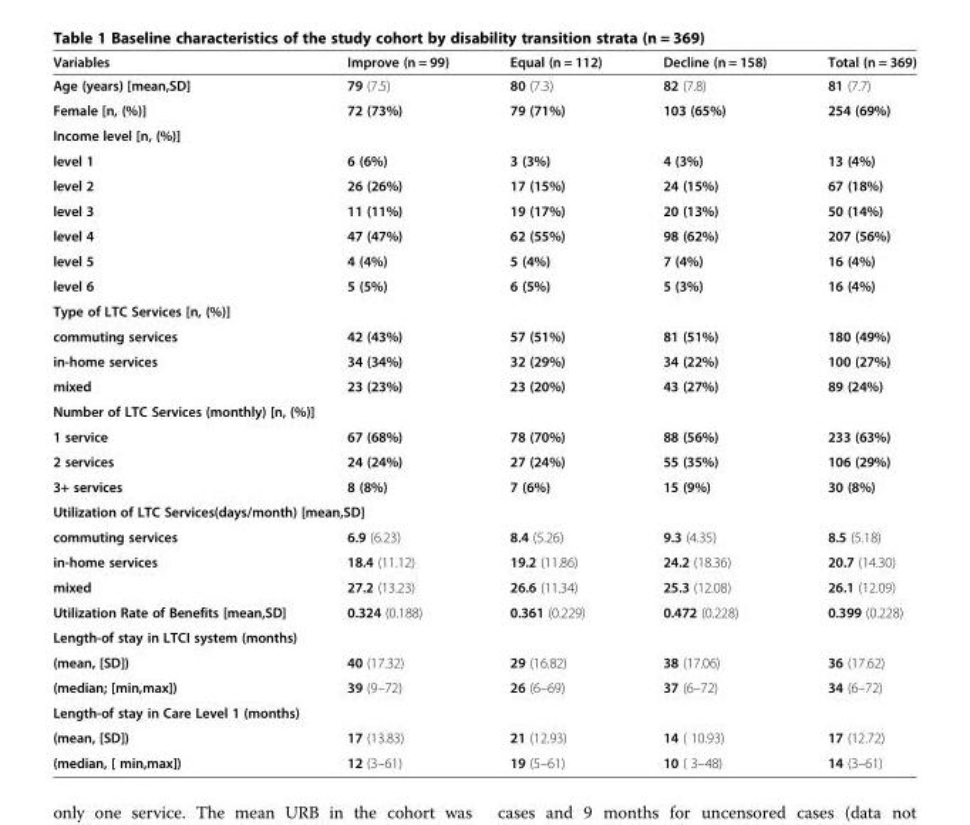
<table><thead><tr><td>Variables</td><td>Improve (n = 99)</td><td>Equal (n = 112)</td><td>Decline (n = 158)</td><td>Total (n = 369)</td></tr></thead><tbody><tr><td>Age (years) [mean,SD]</td><td>79 (7.5)</td><td>80 (7.3)</td><td>82 (7.8)</td><td>81 (7.7)</td></tr><tr><td>Female [n, (%)]</td><td>72 (73%)</td><td>79 (71%)</td><td>103 (65%)</td><td>254 (69%)</td></tr><tr><td colspan="5">Income level [n, (%)]</td></tr><tr><td>level 1</td><td>6 (6%)</td><td>3 (3%)</td><td>4 (3%)</td><td>13 (4%)</td></tr><tr><td>level 2</td><td>26 (26%)</td><td>17 (15%)</td><td>24 (15%)</td><td>67 (18%)</td></tr><tr><td>level 3</td><td>11 (11%)</td><td>19 (17%)</td><td>20 (13%)</td><td>50 (14%)</td></tr><tr><td>level 4</td><td>47 (47%)</td><td>62 (55%)</td><td>98 (62%)</td><td>207 (56%)</td></tr><tr><td>level 5</td><td>4 (4%)</td><td>5 (4%)</td><td>7 (4%)</td><td>16 (4%)</td></tr><tr><td>level 6</td><td>5 (5%)</td><td>6 (5%)</td><td>5 (3%)</td><td>16 (4%)</td></tr><tr><td colspan="5">Type of LTC Services [n, (%)]</td></tr><tr><td>commuting services</td><td>42 (43%)</td><td>57 (51%)</td><td>81 (51%)</td><td>180 (49%)</td></tr><tr><td>in-home services</td><td>34 (34%)</td><td>32 (29%)</td><td>34 (22%)</td><td>100 (27%)</td></tr><tr><td>mixed</td><td>23 (23%)</td><td>23 (20%)</td><td>43 (27%)</td><td>89 (24%)</td></tr><tr><td colspan="5">Number of LTC Services (monthly) [n, (%)]</td></tr><tr><td>1 service</td><td>67 (68%)</td><td>78 (70%)</td><td>88 (56%)</td><td>233 (63%)</td></tr><tr><td>2 services</td><td>24 (24%)</td><td>27 (24%)</td><td>55 (35%)</td><td>106 (29%)</td></tr><tr><td>3+ services</td><td>8 (8%)</td><td>7 (6%)</td><td>15 (9%)</td><td>30 (8%)</td></tr><tr><td colspan="5">Utilization of LTC Services(days/month) [mean,SD]</td></tr><tr><td>commuting services</td><td>6.9 (6.23)</td><td>8.4 (5.26)</td><td>9.3 (4.35)</td><td>8.5 (5.18)</td></tr><tr><td>in-home services</td><td>18.4 (11.12)</td><td>19.2 (11.86)</td><td>24.2 (18.36)</td><td>20.7 (14.30)</td></tr><tr><td>mixed</td><td>27.2 (13.23)</td><td>26.6 (11.34)</td><td>25.3 (12.08)</td><td>26.1 (12.09)</td></tr><tr><td>Utilization Rate of Benefits [mean,SD]</td><td>0.324 (0.188)</td><td>0.361 (0.229)</td><td>0.472 (0.228)</td><td>0.399 (0.228)</td></tr><tr><td colspan="5">Length-of stay in LTCI system (months)</td></tr><tr><td>(mean, [SD])</td><td>40 (17.32)</td><td>29 (16.82)</td><td>38 (17.06)</td><td>36 (17.62)</td></tr><tr><td>(median; [min,max])</td><td>39 (9–72)</td><td>26 (6–69)</td><td>37 (6–72)</td><td>34 (6–72)</td></tr><tr><td colspan="5">Length-of stay in Care Level 1 (months)</td></tr><tr><td>(mean, [SD])</td><td>17 (13.83)</td><td>21 (12.93)</td><td>14 ( 10.93)</td><td>17 (12.72)</td></tr><tr><td>(median, [ min,max])</td><td>12 (3–61)</td><td>19 (5–61)</td><td>10 ( 3–48)</td><td>14 (3–61)</td></tr></tbody></table>